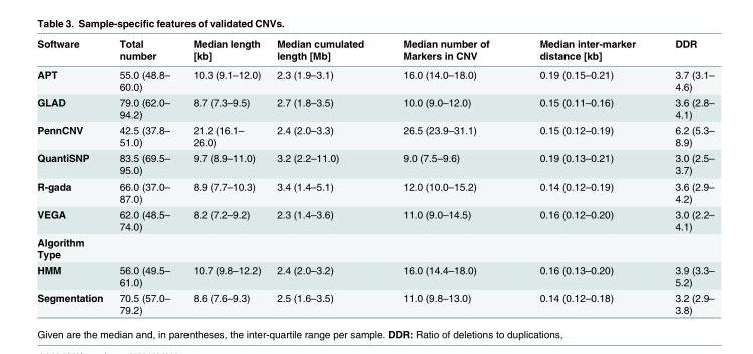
<table><thead><tr><td>Software</td><td>Total number</td><td>Median length [kb]</td><td>Median cumulated length [Mb]</td><td>Median number of Markers in CNV</td><td>Median inter-marker distance [kb]</td><td>DDR</td></tr></thead><tbody><tr><td>APT</td><td>55.0 (48.8– 60.0)</td><td>10.3 (9.1–12.0)</td><td>2.3 (1.9–3.1)</td><td>16.0 (14.0–18.0)</td><td>0.19 (0.15–0.21)</td><td>3.7 (3.1– 4.6)</td></tr><tr><td>GLAD</td><td>79.0 (62.0– 94.2)</td><td>8.7 (7.3–9.5)</td><td>2.7 (1.8–3.5)</td><td>10.0 (9.0–12.0)</td><td>0.15 (0.11–0.16)</td><td>3.6 (2.8– 4.1)</td></tr><tr><td>PennCNV</td><td>42.5 (37.8– 51.0)</td><td>21.2 (16.1– 26.0)</td><td>2.4 (2.0–3.3)</td><td>26.5 (23.9–31.1)</td><td>0.15 (0.12–0.19)</td><td>6.2 (5.3– 8.9)</td></tr><tr><td>QuantiSNP</td><td>83.5 (69.5– 95.0)</td><td>9.7 (8.9–11.0)</td><td>3.2 (2.2–11.0)</td><td>9.0 (7.5–9.6)</td><td>0.19 (0.13–0.21)</td><td>3.0 (2.5– 3.7)</td></tr><tr><td>R-gada</td><td>66.0 (37.0– 87.0)</td><td>8.9 (7.7–10.3)</td><td>3.4 (1.4–5.1)</td><td>12.0 (10.0–15.2)</td><td>0.14 (0.12–0.19)</td><td>3.6 (2.9– 4.2)</td></tr><tr><td>VEGA</td><td>62.0 (48.5– 74.0)</td><td>8.2 (7.2–9.2)</td><td>2.3 (1.4–3.6)</td><td>11.0 (9.0–14.5)</td><td>0.16 (0.12–0.20)</td><td>3.0 (2.2– 4.1)</td></tr><tr><td colspan="7">Algorithm Type</td></tr><tr><td>HMM</td><td>56.0 (49.5– 61.0)</td><td>10.7 (9.8–12.2)</td><td>2.4 (2.0–3.2)</td><td>16.0 (14.4–18.0)</td><td>0.16 (0.13–0.20)</td><td>3.9 (3.3– 5.2)</td></tr><tr><td>Segmentation</td><td>70.5 (57.0– 79.2)</td><td>8.6 (7.6–9.3)</td><td>2.5 (1.6–3.5)</td><td>11.0 (9.8–13.0)</td><td>0.14 (0.12–0.18)</td><td>3.2 (2.9– 3.8)</td></tr></tbody></table>